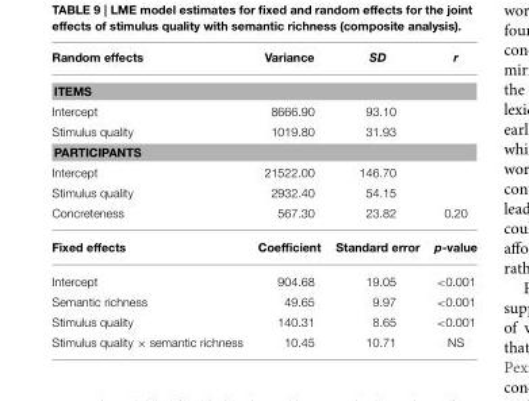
<table><thead><tr><td>Random effects</td><td>Variance</td><td>SD</td><td>r</td></tr></thead><tbody><tr><td colspan="4">ITEMS</td></tr><tr><td>Intercept</td><td>8666.90</td><td>93.10</td><td></td></tr><tr><td>Stimulus quality</td><td>1019.80</td><td>31.93</td><td></td></tr><tr><td colspan="4">PARTICIPANTS</td></tr><tr><td>Intercept</td><td>21522.00</td><td>146.70</td><td></td></tr><tr><td>Stimulus quality</td><td>2932.40</td><td>54.15</td><td></td></tr><tr><td>Concreteness</td><td>567.30</td><td>23.82</td><td>0.20</td></tr><tr><td>Fixed effects</td><td>Coefficient</td><td>Standard error</td><td>p-value</td></tr><tr><td>Intercept</td><td>904.68</td><td>19.05</td><td>&lt;0.001</td></tr><tr><td>Semantic richness</td><td>49.65</td><td>9.97</td><td>&lt;0.001</td></tr><tr><td>Stimulus quality</td><td>140.31</td><td>8.65</td><td>&lt;0.001</td></tr><tr><td>Stimulus quality × semantic richness</td><td>10.45</td><td>10.71</td><td>NS</td></tr></tbody></table>